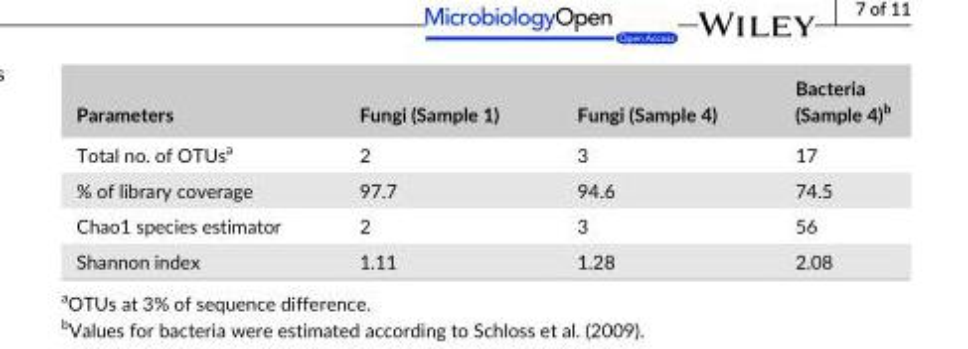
<table><thead><tr><td>Parameters</td><td>Fungi (Sample 1)</td><td>Fungi (Sample 4)</td><td>Bacteria (Sample 4)<sup>b</sup></td></tr></thead><tbody><tr><td>Total no. of OTUs<sup>a</sup></td><td>2</td><td>3</td><td>17</td></tr><tr><td>% of library coverage</td><td>97.7</td><td>94.6</td><td>74.5</td></tr><tr><td>Chao1 species estimator</td><td>2</td><td>3</td><td>56</td></tr><tr><td>Shannon index</td><td>1.11</td><td>1.28</td><td>2.08</td></tr></tbody></table>